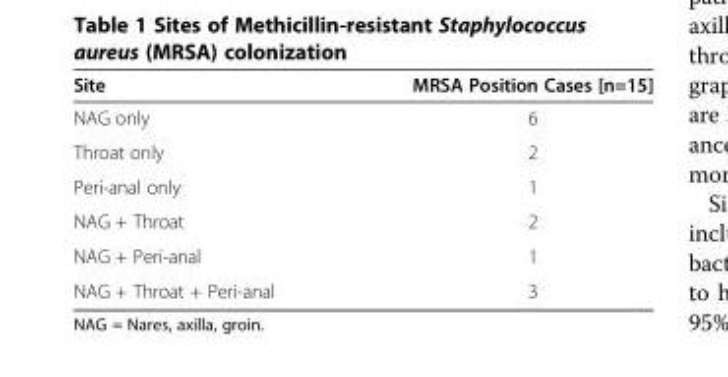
<table><thead><tr><td>Site</td><td>MRSA Position Cases [n=15]</td></tr></thead><tbody><tr><td>NAG only</td><td>6</td></tr><tr><td>Throat only</td><td>2</td></tr><tr><td>Peri-anal only</td><td>1</td></tr><tr><td>NAG + Throat</td><td>2</td></tr><tr><td>NAG + Peri-anal</td><td>1</td></tr><tr><td>NAG + Throat + Peri-anal</td><td>3</td></tr></tbody></table>